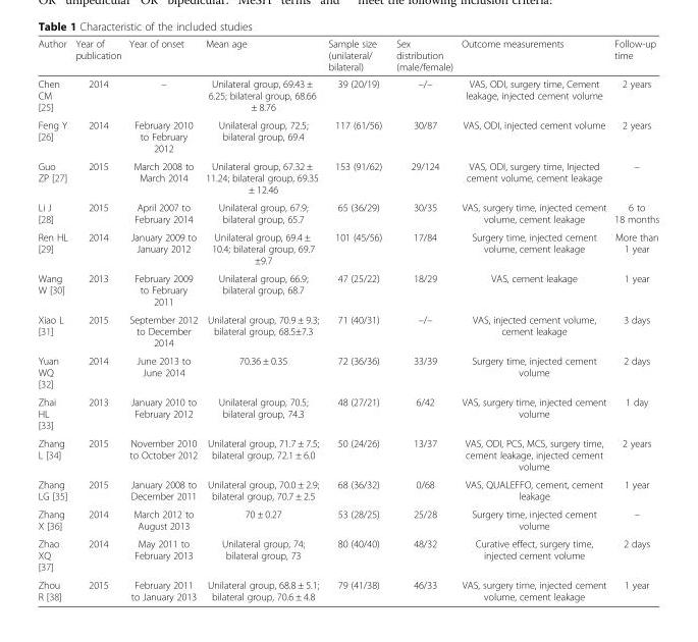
<table><thead><tr><td>Author</td><td>Year of publication</td><td>Year of onset</td><td>Mean age</td><td>Sample size (unilateral/ bilateral)</td><td>Sex distribution (male/female)</td><td>Outcome measurements</td><td>Follow-up time</td></tr></thead><tbody><tr><td>Chen CM [25]</td><td>2014</td><td>–</td><td>Unilateral group, 69.43 ± 6.25; bilateral group, 68.66 ± 8.76</td><td>39 (20/19)</td><td>–/–</td><td>VAS, ODI, surgery time, Cement leakage, injected cement volume</td><td>2 years</td></tr><tr><td>Feng Y [26]</td><td>2014</td><td>February 2010 to February 2012</td><td>Unilateral group, 72.5; bilateral group, 69.4</td><td>117 (61/56)</td><td>30/87</td><td>VAS, ODI, injected cement volume</td><td>2 years</td></tr><tr><td>Guo ZP [27]</td><td>2015</td><td>March 2008 to March 2014</td><td>Unilateral group, 67.32 ± 11.24; bilateral group, 69.35 ± 12.46</td><td>153 (91/62)</td><td>29/124</td><td>VAS, ODI, surgery time, Injected cement volume, cement leakage</td><td>–</td></tr><tr><td>Li J [28]</td><td>2015</td><td>April 2007 to February 2014</td><td>Unilateral group, 67.9; bilateral group, 65.7</td><td>65 (36/29)</td><td>30/35</td><td>VAS, surgery time, injected cement volume, cement leakage</td><td>6 to 18 months</td></tr><tr><td>Ren HL [29]</td><td>2014</td><td>January 2009 to January 2012</td><td>Unilateral group, 69.4 ± 10.4; bilateral group, 69.7 ±9.7</td><td>101 (45/56)</td><td>17/84</td><td>Surgery time, injected cement volume, cement leakage</td><td>More than 1 year</td></tr><tr><td>Wang W [30]</td><td>2013</td><td>February 2009 to February 2011</td><td>Unilateral group, 66.9; bilateral group, 68.7</td><td>47 (25/22)</td><td>18/29</td><td>VAS, cement leakage</td><td>1 year</td></tr><tr><td>Xiao L [31]</td><td>2015</td><td>September 2012 to December 2014</td><td>Unilateral group, 70.9 ± 9.3; bilateral group, 68.5±7.3</td><td>71 (40/31)</td><td>–/–</td><td>VAS, injected cement volume, cement leakage</td><td>3 days</td></tr><tr><td>Yuan WQ [32]</td><td>2014</td><td>June 2013 to June 2014</td><td>70.36 ± 0.35</td><td>72 (36/36)</td><td>33/39</td><td>Surgery time, injected cement volume</td><td>2 days</td></tr><tr><td>Zhai HL [33]</td><td>2013</td><td>January 2010 to February 2012</td><td>Unilateral group, 70.5; bilateral group, 74.3</td><td>48 (27/21)</td><td>6/42</td><td>VAS, surgery time, injected cement volume</td><td>1 day</td></tr><tr><td>Zhang L [34]</td><td>2015</td><td>November 2010 to October 2012</td><td>Unilateral group, 71.7 ± 7.5; bilateral group, 72.1 ± 6.0</td><td>50 (24/26)</td><td>13/37</td><td>VAS, ODI, PCS, MCS, surgery time, cement leakage, injected cement volume</td><td>2 years</td></tr><tr><td>Zhang LG [35]</td><td>2015</td><td>January 2008 to December 2011</td><td>Unilateral group, 70.0 ± 2.9; bilateral group, 70.7 ± 2.5</td><td>68 (36/32)</td><td>0/68</td><td>VAS, QUALEFFO, cement, cement leakage</td><td>1 year</td></tr><tr><td>Zhang X [36]</td><td>2014</td><td>March 2012 to August 2013</td><td>70 ± 0.27</td><td>53 (28/25)</td><td>25/28</td><td>Surgery time, injected cement volume</td><td>–</td></tr><tr><td>Zhao XQ [37]</td><td>2014</td><td>May 2011 to February 2013</td><td>Unilateral group, 74; bilateral group, 73</td><td>80 (40/40)</td><td>48/32</td><td>Curative effect, surgery time, injected cement volume</td><td>2 days</td></tr><tr><td>Zhou R [38]</td><td>2015</td><td>February 2011 to January 2013</td><td>Unilateral group, 68.8 ± 5.1; bilateral group, 70.6 ± 4.8</td><td>79 (41/38)</td><td>46/33</td><td>VAS, surgery time, injected cement volume, cement leakage</td><td>1 year</td></tr></tbody></table>